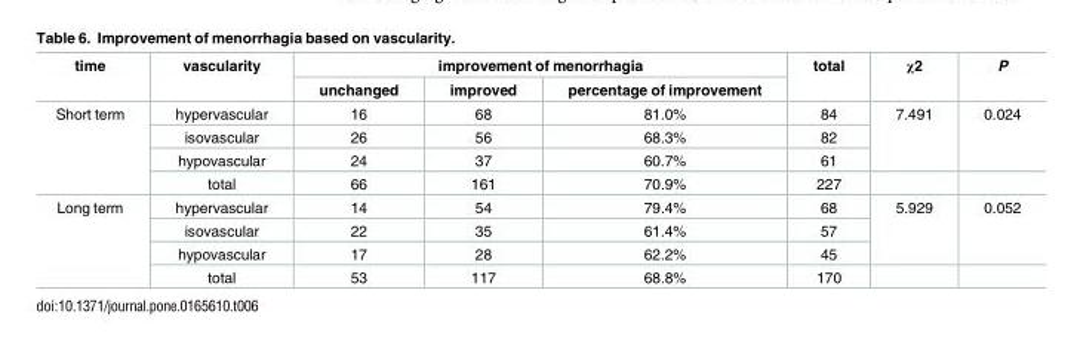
<table><thead><tr><td rowspan="2">time</td><td rowspan="2">vascularity</td><td colspan="3">improvement of menorrhagia</td><td rowspan="2">total</td><td rowspan="2">χ2</td><td rowspan="2">P</td></tr><tr><td>unchanged</td><td>improved</td><td>percentage of improvement</td></tr></thead><tbody><tr><td rowspan="4">Short term</td><td>hypervascular</td><td>16</td><td>68</td><td>81.0%</td><td>84</td><td rowspan="3">7.491</td><td rowspan="3">0.024</td></tr><tr><td>isovascular</td><td>26</td><td>56</td><td>68.3%</td><td>82</td></tr><tr><td>hypovascular</td><td>24</td><td>37</td><td>60.7%</td><td>61</td></tr><tr><td>total</td><td>66</td><td>161</td><td>70.9%</td><td>227</td><td></td><td></td></tr><tr><td rowspan="4">Long term</td><td>hypervascular</td><td>14</td><td>54</td><td>79.4%</td><td>68</td><td rowspan="3">5.929</td><td rowspan="3">0.052</td></tr><tr><td>isovascular</td><td>22</td><td>35</td><td>61.4%</td><td>57</td></tr><tr><td>hypovascular</td><td>17</td><td>28</td><td>62.2%</td><td>45</td></tr><tr><td>total</td><td>53</td><td>117</td><td>68.8%</td><td>170</td><td></td><td></td></tr></tbody></table>